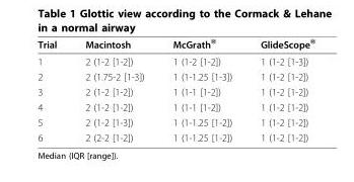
<table><thead><tr><td>Trial</td><td>Macintosh</td><td>McGrath<sup>®</sup></td><td>GlideScope<sup>®</sup></td></tr></thead><tbody><tr><td>1</td><td>2 (1-2 [1-2])</td><td>1 (1-2 [1-2])</td><td>1 (1-2 [1-3])</td></tr><tr><td>2</td><td>2 (1.75-2 [1-3])</td><td>1 (1-1.25 [1-3])</td><td>1 (1-2 [1-2])</td></tr><tr><td>3</td><td>2 (1-2 [1-2])</td><td>1 (1-1 [1-2])</td><td>1 (1-2 [1-2])</td></tr><tr><td>4</td><td>2 (1-2 [1-2])</td><td>1 (1-1 [1-2])</td><td>1 (1-2 [1-2])</td></tr><tr><td>5</td><td>2 (1-2 [1-3])</td><td>1 (1-1.25 [1-2])</td><td>1 (1-2 [1-2])</td></tr><tr><td>6</td><td>2 (2-2 [1-2])</td><td>1 (1-1.25 [1-2])</td><td>1 (1-2 [1-2])</td></tr></tbody></table>